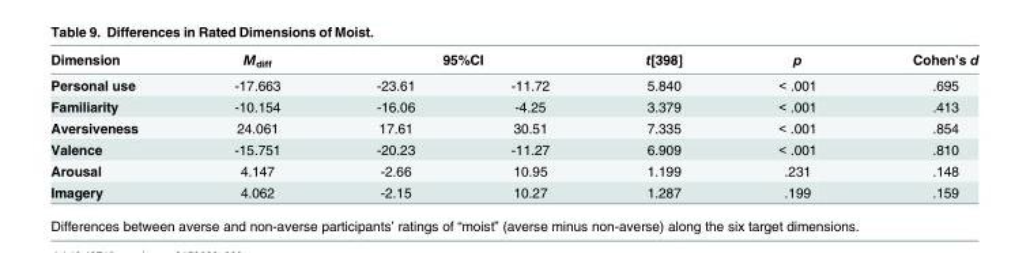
<table><thead><tr><td rowspan="2">Dimension Personal use</td><td rowspan="2">M<sub>diff</sub> -17.663</td><td colspan="2">95%CI</td><td rowspan="2">t[398] 5.840</td><td rowspan="2">p &lt; .001</td><td rowspan="2">Cohen’s d .695</td></tr><tr><td>-23.61</td><td>-11.72</td></tr></thead><tbody><tr><td>Familiarity</td><td>-10.154</td><td>-16.06</td><td>-4.25</td><td>3.379</td><td>&lt; .001</td><td>.413</td></tr><tr><td>Aversiveness</td><td>24.061</td><td>17.61</td><td>30.51</td><td>7.335</td><td>&lt; .001</td><td>.854</td></tr><tr><td>Valence</td><td>-15.751</td><td>-20.23</td><td>-11.27</td><td>6.909</td><td>&lt; .001</td><td>.810</td></tr><tr><td>Arousal</td><td>4.147</td><td>-2.66</td><td>10.95</td><td>1.199</td><td>.231</td><td>.148</td></tr><tr><td>Imagery</td><td>4.062</td><td>-2.15</td><td>10.27</td><td>1.287</td><td>.199</td><td>.159</td></tr></tbody></table>